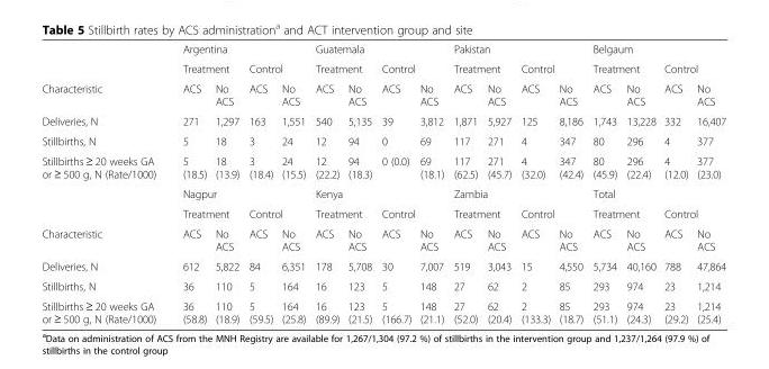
<table><thead><tr><td rowspan="3">Characteristic</td><td colspan="4">Argentina</td><td colspan="4">Guatemala</td><td colspan="4">Pakistan</td><td colspan="4">Belgaum</td></tr><tr><td colspan="2">Treatment</td><td colspan="2">Control</td><td colspan="2">Treatment</td><td colspan="2">Control</td><td colspan="2">Treatment</td><td colspan="2">Control</td><td colspan="2">Treatment</td><td colspan="2">Control</td></tr><tr><td>ACS</td><td>No ACS</td><td>ACS</td><td>No ACS</td><td>ACS</td><td>No ACS</td><td>ACS</td><td>No ACS</td><td>ACS</td><td>No ACS</td><td>ACS</td><td>No ACS</td><td>ACS</td><td>No ACS</td><td>ACS</td><td>No ACS</td></tr></thead><tbody><tr><td>Deliveries, N</td><td>271</td><td>1,297</td><td>163</td><td>1,551</td><td>540</td><td>5,135</td><td>39</td><td>3,812</td><td>1,871</td><td>5,927</td><td>125</td><td>8,186</td><td>1,743</td><td>13,228</td><td>332</td><td>16,407</td></tr><tr><td>Stillbirths, N</td><td>5</td><td>18</td><td>3</td><td>24</td><td>12</td><td>94</td><td>0</td><td>69</td><td>117</td><td>271</td><td>4</td><td>347</td><td>80</td><td>296</td><td>4</td><td>377</td></tr><tr><td rowspan="3">Stillbirths ≥ 20 weeks GA or ≥ 500 g, N (Rate/1000)</td><td>5 (18.5)</td><td>18 (13.9)</td><td>3 (18.4)</td><td>24 (15.5)</td><td>12 (22.2)</td><td>94 (18.3)</td><td>0 (0.0)</td><td>69 (18.1)</td><td>117 (62.5)</td><td>271 (45.7)</td><td>4 (32.0)</td><td>347 (42.4)</td><td>80 (45.9)</td><td>296 (22.4)</td><td>4 (12.0)</td><td>377 (23.0)</td></tr><tr><td colspan="4">Nagpur</td><td colspan="4">Kenya</td><td colspan="4">Zambia</td><td colspan="4">Total</td></tr><tr><td colspan="2">Treatment</td><td colspan="2">Control</td><td colspan="2">Treatment</td><td colspan="2">Control</td><td colspan="2">Treatment</td><td colspan="2">Control</td><td colspan="2">Treatment</td><td colspan="2">Control</td></tr><tr><td>Characteristic</td><td>ACS</td><td>No ACS</td><td>ACS</td><td>No ACS</td><td>ACS</td><td>No ACS</td><td>ACS</td><td>No ACS</td><td>ACS</td><td>No ACS</td><td>ACS</td><td>No ACS</td><td>ACS</td><td>No ACS</td><td>ACS</td><td>No ACS</td></tr><tr><td>Deliveries, N</td><td>612</td><td>5,822</td><td>84</td><td>6,351</td><td>178</td><td>5,708</td><td>30</td><td>7,007</td><td>519</td><td>3,043</td><td>15</td><td>4,550</td><td>5,734</td><td>40,160</td><td>788</td><td>47,864</td></tr><tr><td>Stillbirths, N</td><td>36</td><td>110</td><td>5</td><td>164</td><td>16</td><td>123</td><td>5</td><td>148</td><td>27</td><td>62</td><td>2</td><td>85</td><td>293</td><td>974</td><td>23</td><td>1,214</td></tr><tr><td>Stillbirths ≥ 20 weeks GA or ≥ 500 g, N (Rate/1000)</td><td>36 (58.8)</td><td>110 (18.9)</td><td>5 (59.5)</td><td>164 (25.8)</td><td>16 (89.9)</td><td>123 (21.5)</td><td>5 (166.7)</td><td>148 (21.1)</td><td>27 (52.0)</td><td>62 (20.4)</td><td>2 (133.3)</td><td>85 (18.7)</td><td>293 (51.1)</td><td>974 (24.3)</td><td>23 (29.2)</td><td>1,214 (25.4)</td></tr></tbody></table>